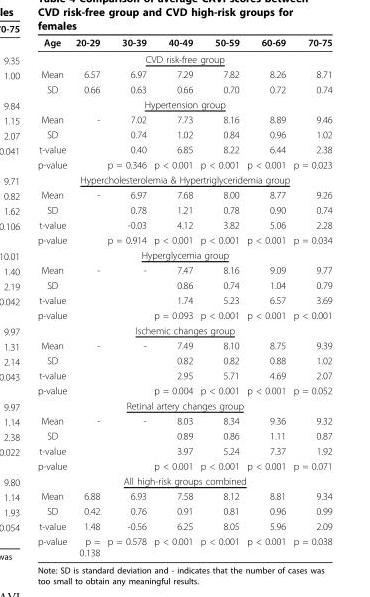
<table><thead><tr><td>Age</td><td>20-29</td><td>30-39</td><td>40-49</td><td>50-59</td><td>60-69</td><td>70-75</td></tr></thead><tbody><tr><td colspan="7">CVD risk-free group</td></tr><tr><td>Mean</td><td>6.57</td><td>6.97</td><td>7.29</td><td>7.82</td><td>8.26</td><td>8.71</td></tr><tr><td>SD</td><td>0.66</td><td>0.63</td><td>0.66</td><td>0.70</td><td>0.72</td><td>0.74</td></tr><tr><td colspan="7">Hypertension group</td></tr><tr><td>Mean</td><td>-</td><td>7.02</td><td>7.73</td><td>8.16</td><td>8.89</td><td>9.46</td></tr><tr><td>SD</td><td></td><td>0.74</td><td>1.02</td><td>0.84</td><td>0.96</td><td>1.02</td></tr><tr><td>t-value</td><td></td><td>0.40</td><td>6.85</td><td>8.22</td><td>6.44</td><td>2.38</td></tr><tr><td>p-value</td><td></td><td>p = 0.346</td><td>p &lt; 0.001</td><td>p &lt; 0.001</td><td>p &lt; 0.001</td><td>p = 0.023</td></tr><tr><td colspan="7">Hypercholesterolemia &amp; Hypertriglyceridemia group</td></tr><tr><td>Mean</td><td>-</td><td>6.97</td><td>7.68</td><td>8.00</td><td>8.77</td><td>9.26</td></tr><tr><td>SD</td><td></td><td>0.78</td><td>1.21</td><td>0.78</td><td>0.90</td><td>0.74</td></tr><tr><td>t-value</td><td></td><td>-0.03</td><td>4.12</td><td>3.82</td><td>5.06</td><td>2.28</td></tr><tr><td>p-value</td><td></td><td>p = 0.914</td><td>p &lt; 0.001</td><td>p &lt; 0.001</td><td>p &lt; 0.001</td><td>p = 0.034</td></tr><tr><td colspan="7">Hyperglycemia group</td></tr><tr><td>Mean</td><td>-</td><td>-</td><td>7.47</td><td>8.16</td><td>9.09</td><td>9.77</td></tr><tr><td>SD</td><td></td><td></td><td>0.86</td><td>0.74</td><td>1.04</td><td>0.79</td></tr><tr><td>t-value</td><td></td><td></td><td>1.74</td><td>5.23</td><td>6.57</td><td>3.69</td></tr><tr><td>p-value</td><td></td><td></td><td>p = 0.093</td><td>p &lt; 0.001</td><td>p &lt; 0.001</td><td>p &lt; 0.001</td></tr><tr><td colspan="7">Ischemic changes group</td></tr><tr><td>Mean</td><td>-</td><td>-</td><td>7.49</td><td>8.10</td><td>8.75</td><td>9.39</td></tr><tr><td>SD</td><td></td><td></td><td>0.82</td><td>0.82</td><td>0.88</td><td>1.02</td></tr><tr><td>t-value</td><td></td><td></td><td>2.95</td><td>5.71</td><td>4.69</td><td>2.07</td></tr><tr><td>p-value</td><td></td><td></td><td>p = 0.004</td><td>p &lt; 0.001</td><td>p &lt; 0.001</td><td>p = 0.052</td></tr><tr><td colspan="7">Retinal artery changes group</td></tr><tr><td>Mean</td><td>-</td><td>-</td><td>8.03</td><td>8.34</td><td>9.36</td><td>9.32</td></tr><tr><td>SD</td><td></td><td></td><td>0.89</td><td>0.86</td><td>1.11</td><td>0.87</td></tr><tr><td>t-value</td><td></td><td></td><td>3.97</td><td>5.24</td><td>7.37</td><td>1.92</td></tr><tr><td>p-value</td><td></td><td></td><td>p &lt; 0.001</td><td>p &lt; 0.001</td><td>p &lt; 0.001</td><td>p = 0.071</td></tr><tr><td colspan="7">All high-risk groups combined</td></tr><tr><td>Mean</td><td>6.88</td><td>6.93</td><td>7.58</td><td>8.12</td><td>8.81</td><td>9.34</td></tr><tr><td>SD</td><td>0.42</td><td>0.76</td><td>0.91</td><td>0.81</td><td>0.96</td><td>0.99</td></tr><tr><td>t-value</td><td>1.48</td><td>-0.56</td><td>6.25</td><td>8.05</td><td>5.96</td><td>2.09</td></tr><tr><td>p-value</td><td>p = 0.138</td><td>p = 0.578</td><td>p &lt; 0.001</td><td>p &lt; 0.001</td><td>p &lt; 0.001</td><td>p = 0.038</td></tr></tbody></table>